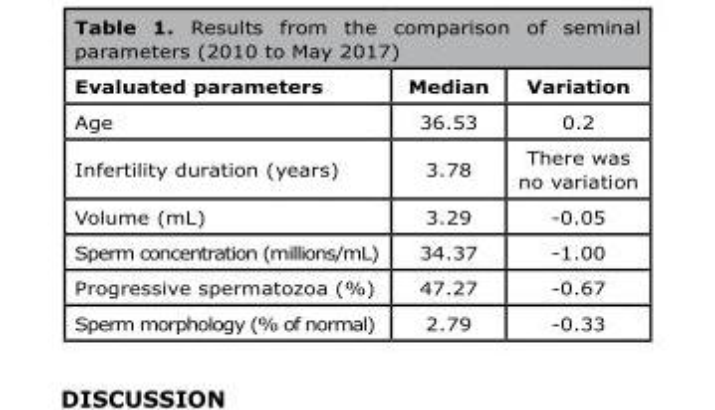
<table><thead><tr><td>Evaluated parameters</td><td>Median</td><td>Variation</td></tr></thead><tbody><tr><td>Age</td><td>36.53</td><td>0.2</td></tr><tr><td>Infertility duration (years)</td><td>3.78</td><td>There was no variation</td></tr><tr><td>Volume (mL)</td><td>3.29</td><td>-0.05</td></tr><tr><td>Sperm concentration (millions/mL)</td><td>34.37</td><td>-1.00</td></tr><tr><td>Progressive spermatozoa (%)</td><td>47.27</td><td>-0.67</td></tr><tr><td>Sperm morphology (% of normal)</td><td>2.79</td><td>-0.33</td></tr></tbody></table>